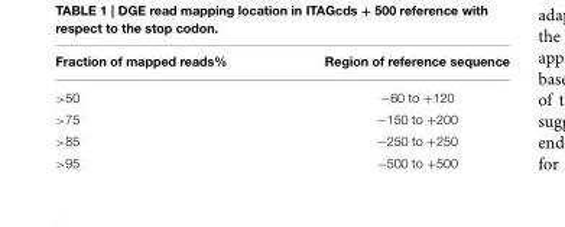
<table><thead><tr><td>Fraction of mapped reads%</td><td>Region of reference sequence</td></tr></thead><tbody><tr><td>&gt;50</td><td>−60 to +120</td></tr><tr><td>&gt;75</td><td>−150 to +200</td></tr><tr><td>&gt;85</td><td>−250 to +250</td></tr><tr><td>&gt;95</td><td>−500 to +500</td></tr></tbody></table>